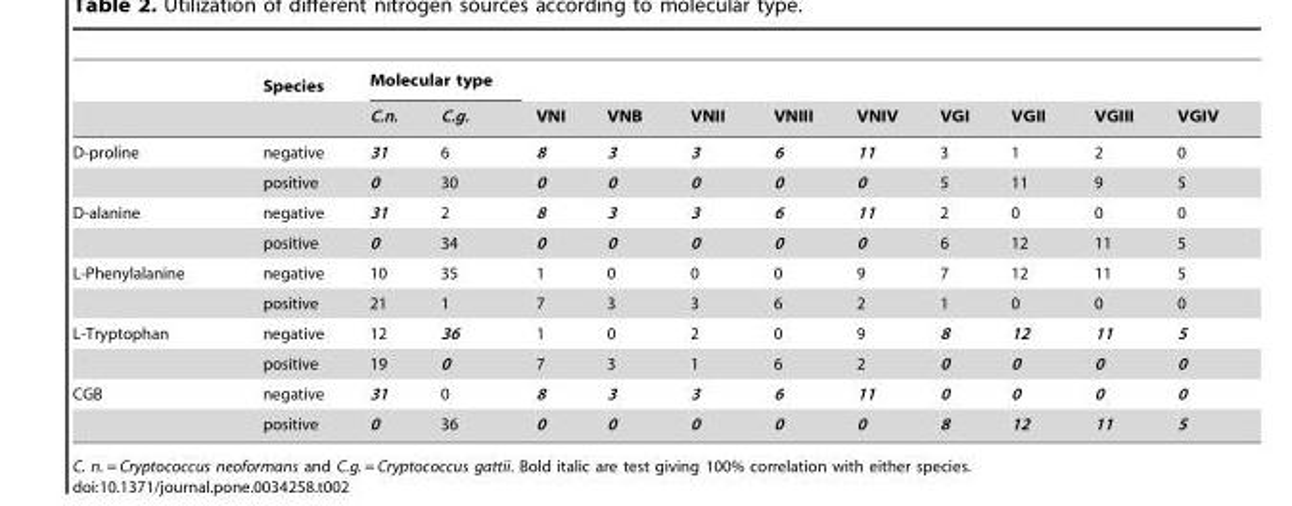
<table><thead><tr><td rowspan="2"></td><td rowspan="2">Species</td><td colspan="2">Molecular type</td><td rowspan="2">VNI</td><td rowspan="2">VNB</td><td rowspan="2">VNII</td><td rowspan="2">VNIII</td><td rowspan="2">VNIV</td><td rowspan="2">VGI</td><td rowspan="2">VGII</td><td rowspan="2">VGIII</td><td rowspan="2">VGIV</td></tr><tr><td>C.n.</td><td>C.g.</td></tr></thead><tbody><tr><td rowspan="2">D-proline</td><td>negative</td><td>31</td><td>6</td><td>8</td><td>3</td><td>3</td><td>6</td><td>11</td><td>3</td><td>1</td><td>2</td><td>0</td></tr><tr><td>positive</td><td>0</td><td>30</td><td>0</td><td>0</td><td>0</td><td>0</td><td>0</td><td>5</td><td>11</td><td>9</td><td>5</td></tr><tr><td rowspan="2">D-alanine</td><td>negative</td><td>31</td><td>2</td><td>8</td><td>3</td><td>3</td><td>6</td><td>11</td><td>2</td><td>0</td><td>0</td><td>0</td></tr><tr><td>positive</td><td>0</td><td>34</td><td>0</td><td>0</td><td>0</td><td>0</td><td>0</td><td>6</td><td>12</td><td>11</td><td>5</td></tr><tr><td rowspan="2">L-Phenylalanine</td><td>negative</td><td>10</td><td>35</td><td>1</td><td>0</td><td>0</td><td>0</td><td>9</td><td>7</td><td>12</td><td>11</td><td>5</td></tr><tr><td>positive</td><td>21</td><td>1</td><td>7</td><td>3</td><td>3</td><td>6</td><td>2</td><td>1</td><td>0</td><td>0</td><td>0</td></tr><tr><td rowspan="2">L-Tryptophan</td><td>negative</td><td>12</td><td>36</td><td>1</td><td>0</td><td>2</td><td>0</td><td>9</td><td>8</td><td>12</td><td>11</td><td>5</td></tr><tr><td>positive</td><td>19</td><td>0</td><td>7</td><td>3</td><td>1</td><td>6</td><td>2</td><td>0</td><td>0</td><td>0</td><td>0</td></tr><tr><td rowspan="2">CGB</td><td>negative</td><td>31</td><td>0</td><td>8</td><td>3</td><td>3</td><td>6</td><td>11</td><td>0</td><td>0</td><td>0</td><td>0</td></tr><tr><td>positive</td><td>0</td><td>36</td><td>0</td><td>0</td><td>0</td><td>0</td><td>0</td><td>8</td><td>12</td><td>11</td><td>5</td></tr></tbody></table>